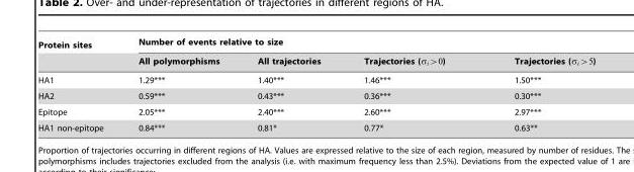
<table><thead><tr><td rowspan="2">Protein sites</td><td colspan="4">Number of events relative to size</td></tr><tr><td>All polymorphisms</td><td>All trajectories</td><td>Trajectories (siw0)</td><td>Trajectories (siw5)</td></tr></thead><tbody><tr><td>HA1</td><td>1.29***</td><td>1.40***</td><td>1.46***</td><td>1.50***</td></tr><tr><td>HA2</td><td>0.59***</td><td>0.43***</td><td>0.36***</td><td>0.30***</td></tr><tr><td>Epitope</td><td>2.05***</td><td>2.40***</td><td>2.60***</td><td>2.97***</td></tr><tr><td>HA1 non-epitope</td><td>0.84***</td><td>0.81*</td><td>0.77*</td><td>0.63**</td></tr></tbody></table>